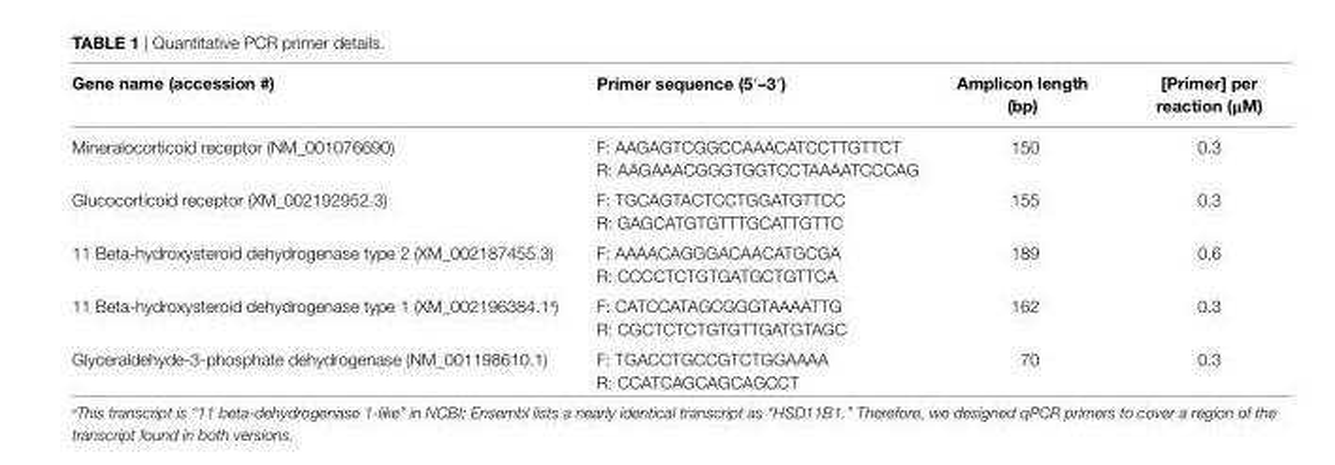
<table><thead><tr><td>gene name (accession #)</td><td>Primer sequence (5′–3′)</td><td>amplicon length (bp)</td><td>[Primer] per reaction (μM)</td></tr></thead><tbody><tr><td>Mineralocorticoid receptor (NM_001076690)</td><td>F: AAGAGTCGGCCAAACATCCTTGTTCT R: AAGAAACGGGTGGTCCTAAAATCCCAG</td><td>150</td><td>0.3</td></tr><tr><td>Glucocorticoid receptor (XM_002192952.3)</td><td>F: TGCAGTACTCCTGGATGTTCC R: GAGCATGTGTTTGCATTGTTC</td><td>155</td><td>0.3</td></tr><tr><td>11 Beta-hydroxysteroid dehydrogenase type 2 (XM_002187455.3)</td><td>F: AAAACAGGGACAACATGCGA R: CCCCTCTGTGATGCTGTTCA</td><td>189</td><td>0.6</td></tr><tr><td>11 Beta-hydroxysteroid dehydrogenase type 1 (XM_002196384.1<sup>a</sup>)</td><td>F: CATCCATAGCGGGTAAAATTG R: CGCTCTCTGTGTTGATGTAGC</td><td>162</td><td>0.3</td></tr><tr><td>Glyceraldehyde-3-phosphate dehydrogenase (NM_001198610.1)</td><td>F: TGACCTGCCGTCTGGAAAA R: CCATCAGCAGCAGCCT</td><td>70</td><td>0.3</td></tr></tbody></table>